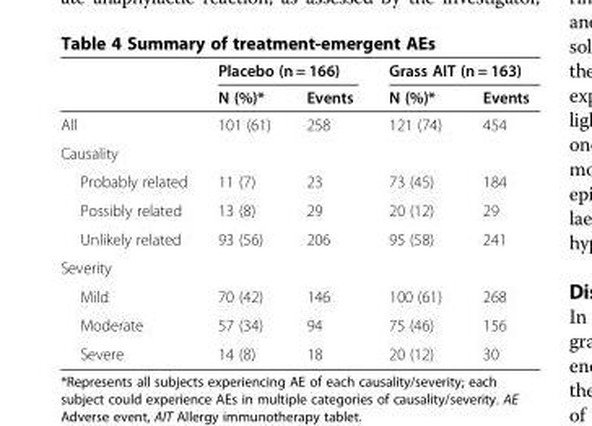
<table><thead><tr><td rowspan="2"></td><td colspan="2">Placebo (n = 166)</td><td colspan="2">Grass AIT (n = 163)</td></tr><tr><td>N (%)*</td><td>Events</td><td>N (%)*</td><td>Events</td></tr></thead><tbody><tr><td>All</td><td>101 (61)</td><td>258</td><td>121 (74)</td><td>454</td></tr><tr><td colspan="5">Causality</td></tr><tr><td>Probably related</td><td>11 (7)</td><td>23</td><td>73 (45)</td><td>184</td></tr><tr><td>Possibly related</td><td>13 (8)</td><td>29</td><td>20 (12)</td><td>29</td></tr><tr><td>Unlikely related</td><td>93 (56)</td><td>206</td><td>95 (58)</td><td>241</td></tr><tr><td colspan="5">Severity</td></tr><tr><td>Mild</td><td>70 (42)</td><td>146</td><td>100 (61)</td><td>268</td></tr><tr><td>Moderate</td><td>57 (34)</td><td>94</td><td>75 (46)</td><td>156</td></tr><tr><td>Severe</td><td>14 (8)</td><td>18</td><td>20 (12)</td><td>30</td></tr></tbody></table>